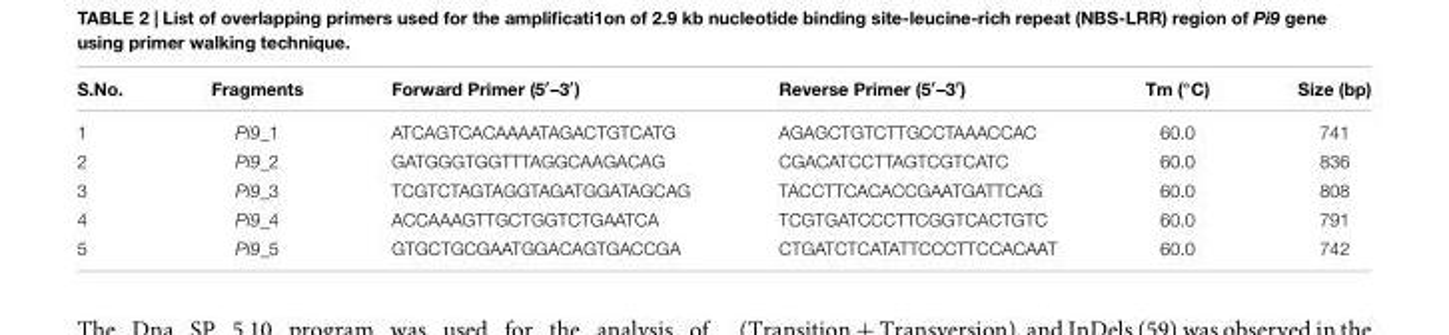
<table><thead><tr><td>S.No.</td><td>Fragments</td><td>Forward Primer (5′–3′)</td><td>Reverse Primer (5′–3′)</td><td>Tm (◦C)</td><td>Size (bp)</td></tr></thead><tbody><tr><td>1</td><td>Pi9_1</td><td>ATCAGTCACAAAATAGACTGTCATG</td><td>AGAGCTGTCTTGCCTAAACCAC</td><td>60.0</td><td>741</td></tr><tr><td>2</td><td>Pi9_2</td><td>GATGGGTGGTTTAGGCAAGACAG</td><td>CGACATCCTTAGTCGTCATC</td><td>60.0</td><td>836</td></tr><tr><td>3</td><td>Pi9_3</td><td>TCGTCTAGTAGGTAGATGGATAGCAG</td><td>TACCTTCACACCGAATGATTCAG</td><td>60.0</td><td>808</td></tr><tr><td>4</td><td>Pi9_4</td><td>ACCAAAGTTGCTGGTCTGAATCA</td><td>TCGTGATCCCTTCGGTCACTGTC</td><td>60.0</td><td>791</td></tr><tr><td>5</td><td>Pi9_5</td><td>GTGCTGCGAATGGACAGTGACCGA</td><td>CTGATCTCATATTCCCTTCCACAAT</td><td>60.0</td><td>742</td></tr></tbody></table>